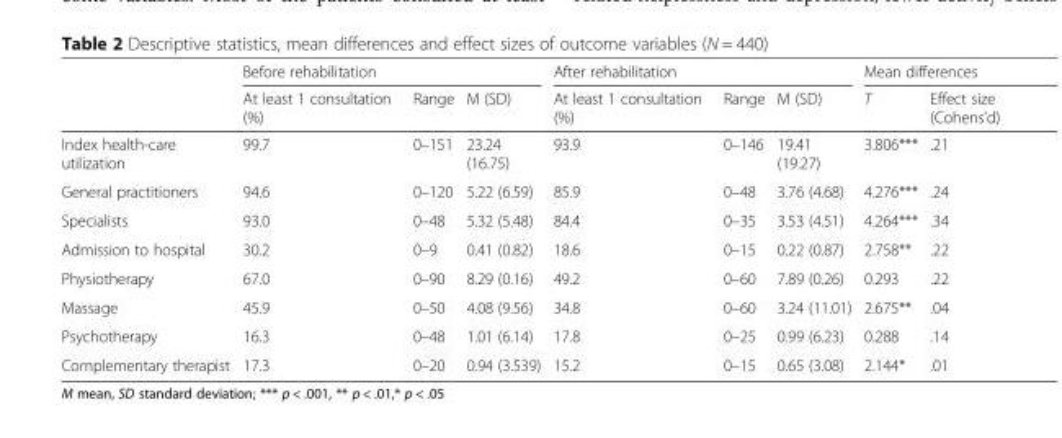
<table><thead><tr><td rowspan="2"></td><td colspan="3">Before rehabilitation</td><td colspan="3">After rehabilitation</td><td colspan="2">Mean differences</td></tr><tr><td>At least 1 consultation (%)</td><td>Range</td><td>M (SD)</td><td>At least 1 consultation (%)</td><td>Range</td><td>M (SD)</td><td>T</td><td>Effect size (Cohens’d)</td></tr></thead><tbody><tr><td>Index health-care utilization</td><td>99.7</td><td>0–151</td><td>23.24 (16.75)</td><td>93.9</td><td>0–146</td><td>19.41 (19.27)</td><td>3.806***</td><td>.21</td></tr><tr><td>General practitioners</td><td>94.6</td><td>0–120</td><td>5.22 (6.59)</td><td>85.9</td><td>0–48</td><td>3.76 (4.68)</td><td>4.276***</td><td>.24</td></tr><tr><td>Specialists</td><td>93.0</td><td>0–48</td><td>5.32 (5.48)</td><td>84.4</td><td>0–35</td><td>3.53 (4.51)</td><td>4.264***</td><td>.34</td></tr><tr><td>Admission to hospital</td><td>30.2</td><td>0–9</td><td>0.41 (0.82)</td><td>18.6</td><td>0–15</td><td>0.22 (0.87)</td><td>2.758**</td><td>.22</td></tr><tr><td>Physiotherapy</td><td>67.0</td><td>0–90</td><td>8.29 (0.16)</td><td>49.2</td><td>0–60</td><td>7.89 (0.26)</td><td>0.293</td><td>.22</td></tr><tr><td>Massage</td><td>45.9</td><td>0–50</td><td>4.08 (9.56)</td><td>34.8</td><td>0–60</td><td>3.24 (11.01)</td><td>2.675**</td><td>.04</td></tr><tr><td>Psychotherapy</td><td>16.3</td><td>0–48</td><td>1.01 (6.14)</td><td>17.8</td><td>0–25</td><td>0.99 (6.23)</td><td>0.288</td><td>.14</td></tr><tr><td>Complementary therapist</td><td>17.3</td><td>0–20</td><td>0.94 (3.539)</td><td>15.2</td><td>0–15</td><td>0.65 (3.08)</td><td>2.144*</td><td>.01</td></tr></tbody></table>